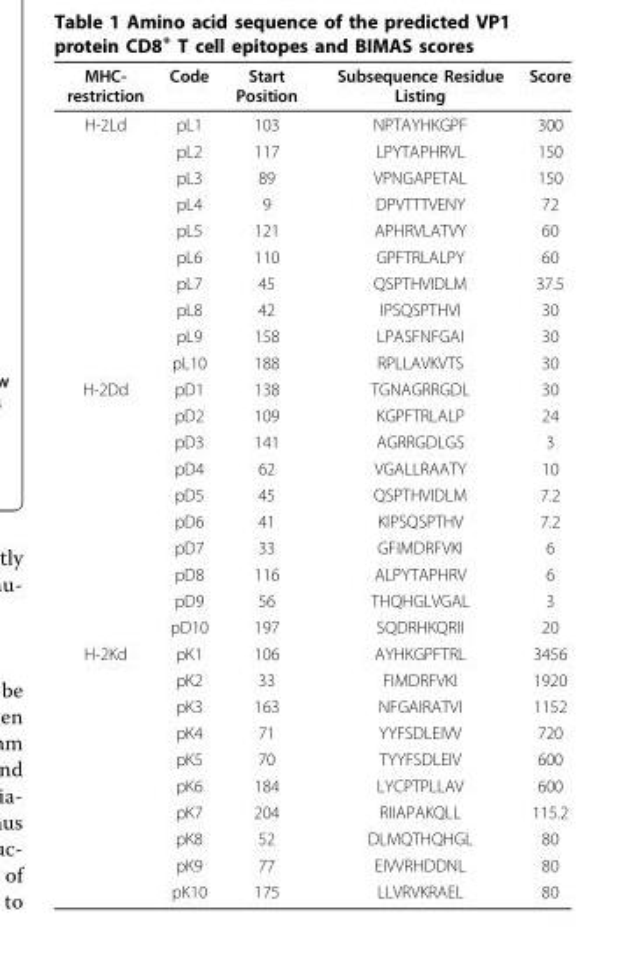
<table><thead><tr><td>MHC- restriction</td><td>Code</td><td>Start Position</td><td>Subsequence Residue Listing</td><td>Score</td></tr></thead><tbody><tr><td rowspan="10">H-2Ld</td><td>pL1</td><td>103</td><td>NPTAYHKGPF</td><td>300</td></tr><tr><td>pL2</td><td>117</td><td>LPYTAPHRVL</td><td>150</td></tr><tr><td>pL3</td><td>89</td><td>VPNGAPETAL</td><td>150</td></tr><tr><td>pL4</td><td>9</td><td>DPVTTTVENY</td><td>72</td></tr><tr><td>pL5</td><td>121</td><td>APHRVLATVY</td><td>60</td></tr><tr><td>pL6</td><td>110</td><td>GPFTRLALPY</td><td>60</td></tr><tr><td>pL7</td><td>45</td><td>QSPTHVIDLM</td><td>37.5</td></tr><tr><td>pL8</td><td>42</td><td>IPSQSPTHVI</td><td>30</td></tr><tr><td>pL9</td><td>158</td><td>LPASFNFGAI</td><td>30</td></tr><tr><td>pL10</td><td>188</td><td>RPLLAVKVTS</td><td>30</td></tr><tr><td rowspan="10">H-2Dd</td><td>pD1</td><td>138</td><td>TGNAGRRGDL</td><td>30</td></tr><tr><td>pD2</td><td>109</td><td>KGPFTRLALP</td><td>24</td></tr><tr><td>pD3</td><td>141</td><td>AGRRGDLGS</td><td>3</td></tr><tr><td>pD4</td><td>62</td><td>VGALLRAATY</td><td>10</td></tr><tr><td>pD5</td><td>45</td><td>QSPTHVIDLM</td><td>7.2</td></tr><tr><td>pD6</td><td>41</td><td>KIPSQSPTHV</td><td>7.2</td></tr><tr><td>pD7</td><td>33</td><td>GFIMDRFVKI</td><td>6</td></tr><tr><td>pD8</td><td>116</td><td>ALPYTAPHRV</td><td>6</td></tr><tr><td>pD9</td><td>56</td><td>THQHGLVGAL</td><td>3</td></tr><tr><td>pD10</td><td>197</td><td>SQDRHKQRII</td><td>20</td></tr><tr><td rowspan="10">H-2Kd</td><td>pK1</td><td>106</td><td>AYHKGPFTRL</td><td>3456</td></tr><tr><td>pK2</td><td>33</td><td>FIMDRFVKI</td><td>1920</td></tr><tr><td>pK3</td><td>163</td><td>NFGAIRATVI</td><td>1152</td></tr><tr><td>pK4</td><td>71</td><td>YYFSDLEIVV</td><td>720</td></tr><tr><td>pK5</td><td>70</td><td>TYYFSDLEIV</td><td>600</td></tr><tr><td>pK6</td><td>184</td><td>LYCPTPLLAV</td><td>600</td></tr><tr><td>pK7</td><td>204</td><td>RIIAPAKQLL</td><td>115.2</td></tr><tr><td>pK8</td><td>52</td><td>DLMQTHQHGL</td><td>80</td></tr><tr><td>pK9</td><td>77</td><td>EIVVRHDDNL</td><td>80</td></tr><tr><td>pK10</td><td>175</td><td>LLVRVKRAEL</td><td>80</td></tr></tbody></table>